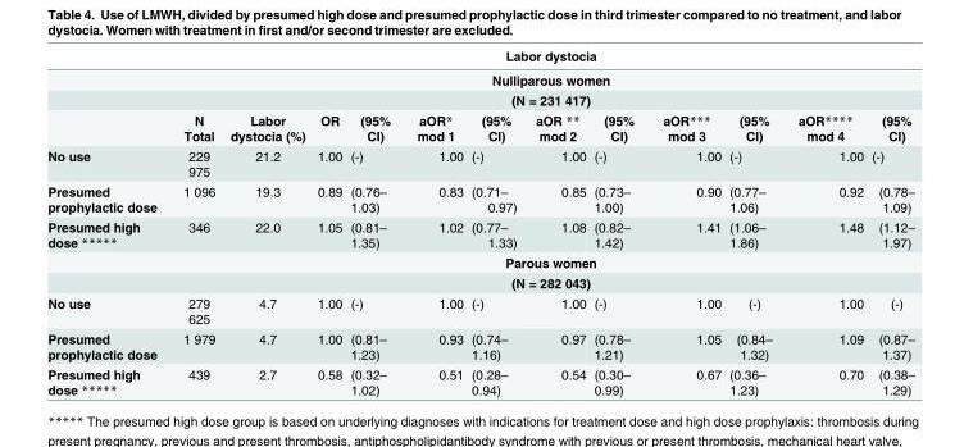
<table><thead><tr><td rowspan="4"></td><td rowspan="3" colspan="12">Labor dystocia Nulliparous women (N = 231 417)</td></tr><tr></tr><tr></tr><tr><td>N Total</td><td>Labor dystocia (%)</td><td>OR</td><td>(95% CI)</td><td>aOR* mod 1</td><td>(95% CI)</td><td>aOR ** mod 2</td><td>(95% CI)</td><td>aOR*** mod 3</td><td>(95% CI)</td><td>aOR**** mod 4</td><td>(95% CI)</td></tr></thead><tbody><tr><td>No use</td><td>229 975</td><td>21.2</td><td>1.00</td><td>(-)</td><td>1.00</td><td>(-)</td><td>1.00</td><td>(-)</td><td>1.00</td><td>(-)</td><td>1.00</td><td>(-)</td></tr><tr><td>Presumed prophylactic dose</td><td>1 096</td><td>19.3</td><td>0.89</td><td>(0.76– 1.03)</td><td>0.83</td><td>(0.71– 0.97)</td><td>0.85</td><td>(0.73– 1.00)</td><td>0.90</td><td>(0.77– 1.06)</td><td>0.92</td><td>(0.78– 1.09)</td></tr><tr><td rowspan="3">Presumed high dose *****</td><td>346</td><td>22.0</td><td>1.05</td><td>(0.81– 1.35)</td><td>1.02</td><td>(0.77– 1.33)</td><td>1.08</td><td>(0.82– 1.42)</td><td>1.41</td><td>(1.06– 1.86)</td><td>1.48</td><td>(1.12– 1.97)</td></tr><tr><td colspan="12">Parous women</td></tr><tr><td colspan="12">(N = 282 043)</td></tr><tr><td>No use</td><td>279 625</td><td>4.7</td><td>1.00</td><td>(-)</td><td>1.00</td><td>(-)</td><td>1.00</td><td>(-)</td><td>1.00</td><td>(-)</td><td>1.00</td><td>(-)</td></tr><tr><td>Presumed prophylactic dose</td><td>1 979</td><td>4.7</td><td>1.00</td><td>(0.81– 1.23)</td><td>0.93</td><td>(0.74– 1.16)</td><td>0.97</td><td>(0.78– 1.21)</td><td>1.05</td><td>(0.84– 1.32)</td><td>1.09</td><td>(0.87– 1.37)</td></tr><tr><td>Presumed high dose *****</td><td>439</td><td>2.7</td><td>0.58</td><td>(0.32– 1.02)</td><td>0.51</td><td>(0.28– 0.94)</td><td>0.54</td><td>(0.30– 0.99)</td><td>0.67</td><td>(0.36– 1.23)</td><td>0.70</td><td>(0.38– 1.29)</td></tr></tbody></table>